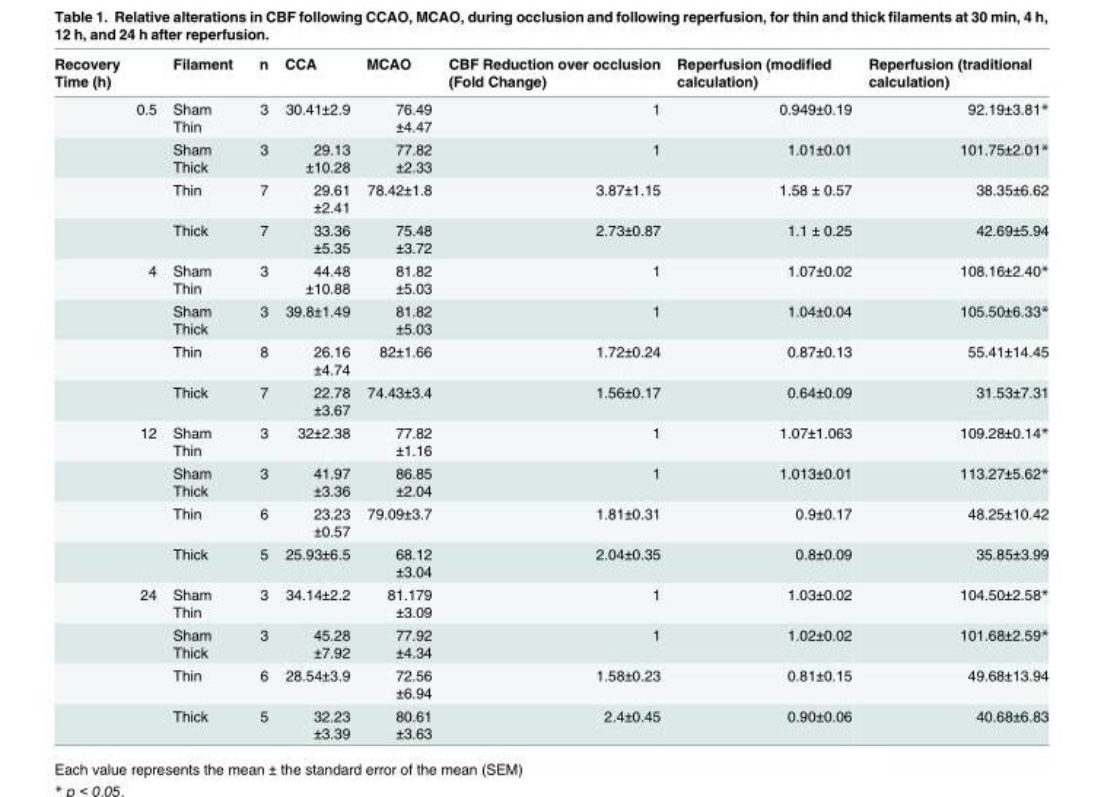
<table><thead><tr><td>Recovery Time (h)</td><td>Filament</td><td>n</td><td>CCA</td><td>MCAO</td><td>CBF Reduction over occlusion (Fold Change)</td><td>Reperfusion (modified calculation)</td><td>Reperfusion (traditional calculation)</td></tr></thead><tbody><tr><td rowspan="4">0.5</td><td>Sham Thin</td><td>3</td><td>30.41±2.9</td><td>76.49 ±4.47</td><td>1</td><td>0.949±0.19</td><td>92.19±3.81*</td></tr><tr><td>Sham Thick</td><td>3</td><td>29.13 ±10.28</td><td>77.82 ±2.33</td><td>1</td><td>1.01±0.01</td><td>101.75±2.01*</td></tr><tr><td>Thin</td><td>7</td><td>29.61 ±2.41</td><td>78.42±1.8</td><td>3.87±1.15</td><td>1.58 ± 0.57</td><td>38.35±6.62</td></tr><tr><td>Thick</td><td>7</td><td>33.36 ±5.35</td><td>75.48 ±3.72</td><td>2.73±0.87</td><td>1.1 ± 0.25</td><td>42.69±5.94</td></tr><tr><td rowspan="4">4</td><td>Sham Thin</td><td>3</td><td>44.48 ±10.88</td><td>81.82 ±5.03</td><td>1</td><td>1.07±0.02</td><td>108.16±2.40*</td></tr><tr><td>Sham Thick</td><td>3</td><td>39.8±1.49</td><td>81.82 ±5.03</td><td>1</td><td>1.04±0.04</td><td>105.50±6.33*</td></tr><tr><td>Thin</td><td>8</td><td>26.16 ±4.74</td><td>82±1.66</td><td>1.72±0.24</td><td>0.87±0.13</td><td>55.41±14.45</td></tr><tr><td>Thick</td><td>7</td><td>22.78 ±3.67</td><td>74.43±3.4</td><td>1.56±0.17</td><td>0.64±0.09</td><td>31.53±7.31</td></tr><tr><td rowspan="4">12</td><td>Sham Thin</td><td>3</td><td>32±2.38</td><td>77.82 ±1.16</td><td>1</td><td>1.07±1.063</td><td>109.28±0.14*</td></tr><tr><td>Sham Thick</td><td>3</td><td>41.97 ±3.36</td><td>86.85 ±2.04</td><td>1</td><td>1.013±0.01</td><td>113.27±5.62*</td></tr><tr><td>Thin</td><td>6</td><td>23.23 ±0.57</td><td>79.09±3.7</td><td>1.81±0.31</td><td>0.9±0.17</td><td>48.25±10.42</td></tr><tr><td>Thick</td><td>5</td><td>25.93±6.5</td><td>68.12 ±3.04</td><td>2.04±0.35</td><td>0.8±0.09</td><td>35.85±3.99</td></tr><tr><td rowspan="4">24</td><td>Sham Thin</td><td>3</td><td>34.14±2.2</td><td>81.179 ±3.09</td><td>1</td><td>1.03±0.02</td><td>104.50±2.58*</td></tr><tr><td>Sham Thick</td><td>3</td><td>45.28 ±7.92</td><td>77.92 ±4.34</td><td>1</td><td>1.02±0.02</td><td>101.68±2.59*</td></tr><tr><td>Thin</td><td>6</td><td>28.54±3.9</td><td>72.56 ±6.94</td><td>1.58±0.23</td><td>0.81±0.15</td><td>49.68±13.94</td></tr><tr><td>Thick</td><td>5</td><td>32.23 ±3.39</td><td>80.61 ±3.63</td><td>2.4±0.45</td><td>0.90±0.06</td><td>40.68±6.83</td></tr></tbody></table>